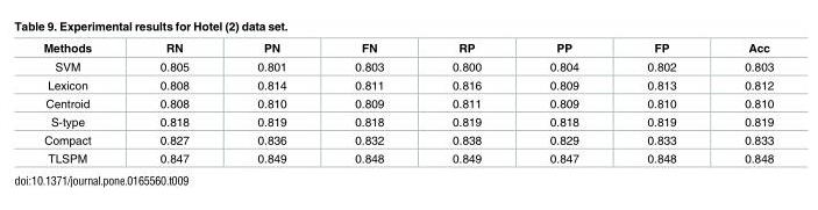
<table><thead><tr><td>Methods</td><td>RN</td><td>PN</td><td>FN</td><td>RP</td><td>PP</td><td>FP</td><td>Acc</td></tr></thead><tbody><tr><td>SVM</td><td>0.805</td><td>0.801</td><td>0.803</td><td>0.800</td><td>0.804</td><td>0.802</td><td>0.803</td></tr><tr><td>Lexicon</td><td>0.808</td><td>0.814</td><td>0.811</td><td>0.816</td><td>0.809</td><td>0.813</td><td>0.812</td></tr><tr><td>Centroid</td><td>0.808</td><td>0.810</td><td>0.809</td><td>0.811</td><td>0.809</td><td>0.810</td><td>0.810</td></tr><tr><td>S-type</td><td>0.818</td><td>0.819</td><td>0.818</td><td>0.819</td><td>0.818</td><td>0.819</td><td>0.819</td></tr><tr><td>Compact</td><td>0.827</td><td>0.836</td><td>0.832</td><td>0.838</td><td>0.829</td><td>0.833</td><td>0.833</td></tr><tr><td>TLSPM</td><td>0.847</td><td>0.849</td><td>0.848</td><td>0.849</td><td>0.847</td><td>0.848</td><td>0.848</td></tr></tbody></table>